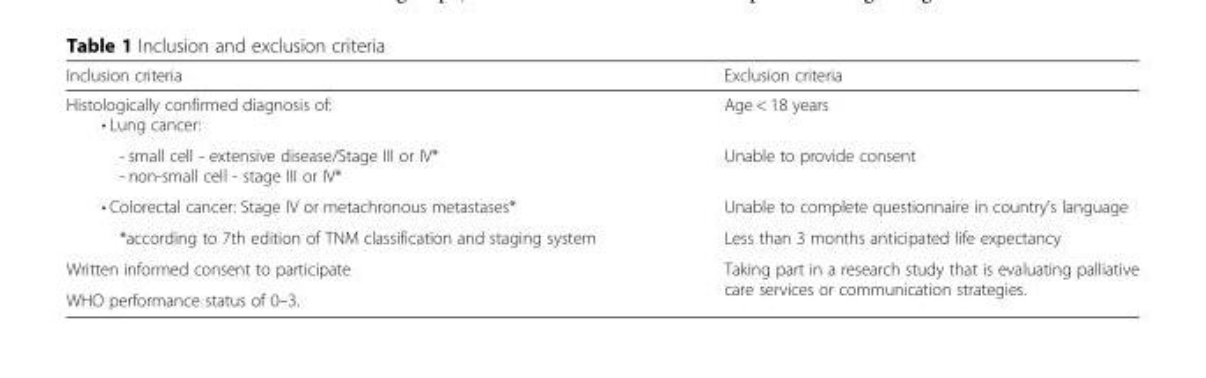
<table><thead><tr><td>Inclusion criteria</td><td>Exclusion criteria</td></tr></thead><tbody><tr><td>Histologically confirmed diagnosis of: • Lung cancer:</td><td>Age &lt; 18 years</td></tr><tr><td>- small cell - extensive disease/Stage III or IV* - non-small cell - stage III or IV*</td><td>Unable to provide consent</td></tr><tr><td>• Colorectal cancer: Stage IV or metachronous metastases*</td><td>Unable to complete questionnaire in country’s language</td></tr><tr><td>*according to 7th edition of TNM classification and staging system</td><td>Less than 3 months anticipated life expectancy</td></tr><tr><td>Written informed consent to participate</td><td rowspan="2">Taking part in a research study that is evaluating palliative care services or communication strategies.</td></tr><tr><td>WHO performance status of 0–3.</td></tr></tbody></table>